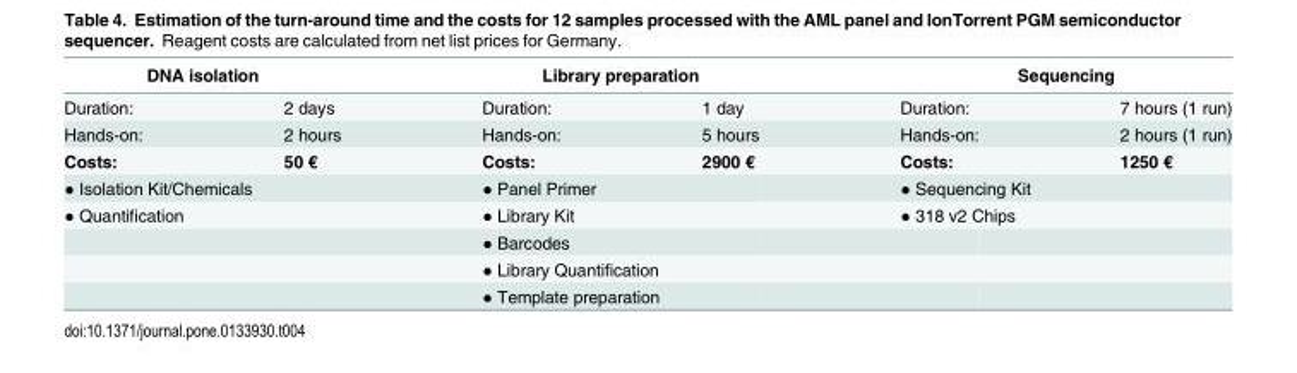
<table><thead><tr><td colspan="2">DNA isolation</td><td colspan="2">Library preparation</td><td colspan="2">Sequencing</td></tr><tr><td>Duration:</td><td>2 days</td><td>Duration:</td><td>1 day</td><td>Duration:</td><td>7 hours (1 run)</td></tr></thead><tbody><tr><td>Hands-on:</td><td>2 hours</td><td>Hands-on:</td><td>5 hours</td><td>Hands-on:</td><td>2 hours (1 run)</td></tr><tr><td>Costs:</td><td>50 €</td><td>Costs:</td><td>2900 €</td><td>Costs:</td><td>1250 €</td></tr><tr><td colspan="2">● Isolation Kit/Chemicals</td><td colspan="2">● Panel Primer</td><td colspan="2">● Sequencing Kit</td></tr><tr><td colspan="2">● Quantification</td><td colspan="2">● Library Kit</td><td colspan="2">● 318 v2 Chips</td></tr><tr><td></td><td></td><td colspan="2">● Barcodes</td><td></td><td></td></tr><tr><td></td><td></td><td colspan="2">● Library Quantification</td><td></td><td></td></tr><tr><td></td><td></td><td colspan="2">● Template preparation</td><td></td><td></td></tr></tbody></table>